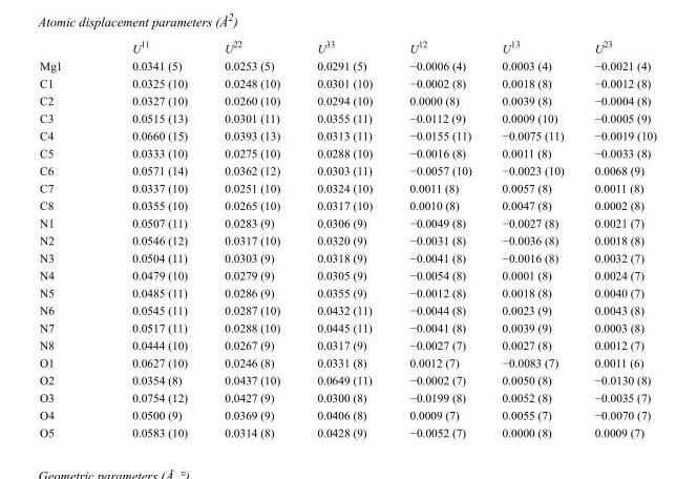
<table><thead><tr><td></td><td>U<sup>11</sup></td><td>U<sup>22</sup></td><td>U<sup>33</sup></td><td>U<sup>12</sup></td><td>U<sup>13</sup></td><td>U<sup>23</sup></td></tr></thead><tbody><tr><td>Mg1</td><td>0.0341 (5)</td><td>0.0253 (5)</td><td>0.0291 (5)</td><td>−0.0006 (4)</td><td>0.0003 (4)</td><td>−0.0021 (4)</td></tr><tr><td>C1</td><td>0.0325 (10)</td><td>0.0248 (10)</td><td>0.0301 (10)</td><td>−0.0002 (8)</td><td>0.0018 (8)</td><td>−0.0012 (8)</td></tr><tr><td>C2</td><td>0.0327 (10)</td><td>0.0260 (10)</td><td>0.0294 (10)</td><td>0.0000 (8)</td><td>0.0039 (8)</td><td>−0.0004 (8)</td></tr><tr><td>C3</td><td>0.0515 (13)</td><td>0.0301 (11)</td><td>0.0355 (11)</td><td>−0.0112 (9)</td><td>0.0009 (10)</td><td>−0.0005 (9)</td></tr><tr><td>C4</td><td>0.0660 (15)</td><td>0.0393 (13)</td><td>0.0313 (11)</td><td>−0.0155 (11)</td><td>−0.0075 (11)</td><td>−0.0019 (10)</td></tr><tr><td>C5</td><td>0.0333 (10)</td><td>0.0275 (10)</td><td>0.0288 (10)</td><td>−0.0016 (8)</td><td>0.0011 (8)</td><td>−0.0033 (8)</td></tr><tr><td>C6</td><td>0.0571 (14)</td><td>0.0362 (12)</td><td>0.0303 (11)</td><td>−0.0057 (10)</td><td>−0.0023 (10)</td><td>0.0068 (9)</td></tr><tr><td>C7</td><td>0.0337 (10)</td><td>0.0251 (10)</td><td>0.0324 (10)</td><td>0.0011 (8)</td><td>0.0057 (8)</td><td>0.0011 (8)</td></tr><tr><td>C8</td><td>0.0355 (10)</td><td>0.0265 (10)</td><td>0.0317 (10)</td><td>0.0010 (8)</td><td>0.0047 (8)</td><td>0.0002 (8)</td></tr><tr><td>N1</td><td>0.0507 (11)</td><td>0.0283 (9)</td><td>0.0306 (9)</td><td>−0.0049 (8)</td><td>−0.0027 (8)</td><td>0.0021 (7)</td></tr><tr><td>N2</td><td>0.0546 (12)</td><td>0.0317 (10)</td><td>0.0320 (9)</td><td>−0.0031 (8)</td><td>−0.0036 (8)</td><td>0.0018 (8)</td></tr><tr><td>N3</td><td>0.0504 (11)</td><td>0.0303 (9)</td><td>0.0318 (9)</td><td>−0.0041 (8)</td><td>−0.0016 (8)</td><td>0.0032 (7)</td></tr><tr><td>N4</td><td>0.0479 (10)</td><td>0.0279 (9)</td><td>0.0305 (9)</td><td>−0.0054 (8)</td><td>0.0001 (8)</td><td>0.0024 (7)</td></tr><tr><td>N5</td><td>0.0485 (11)</td><td>0.0286 (9)</td><td>0.0355 (9)</td><td>−0.0012 (8)</td><td>0.0018 (8)</td><td>0.0040 (7)</td></tr><tr><td>N6</td><td>0.0545 (11)</td><td>0.0287 (10)</td><td>0.0432 (11)</td><td>−0.0044 (8)</td><td>0.0023 (9)</td><td>0.0043 (8)</td></tr><tr><td>N7</td><td>0.0517 (11)</td><td>0.0288 (10)</td><td>0.0445 (11)</td><td>−0.0041 (8)</td><td>0.0039 (9)</td><td>0.0003 (8)</td></tr><tr><td>N8</td><td>0.0444 (10)</td><td>0.0267 (9)</td><td>0.0317 (9)</td><td>−0.0027 (7)</td><td>0.0027 (8)</td><td>0.0012 (7)</td></tr><tr><td>O1</td><td>0.0627 (10)</td><td>0.0246 (8)</td><td>0.0331 (8)</td><td>0.0012 (7)</td><td>−0.0083 (7)</td><td>0.0011 (6)</td></tr><tr><td>O2</td><td>0.0354 (8)</td><td>0.0437 (10)</td><td>0.0649 (11)</td><td>−0.0002 (7)</td><td>0.0050 (8)</td><td>−0.0130 (8)</td></tr><tr><td>O3</td><td>0.0754 (12)</td><td>0.0427 (9)</td><td>0.0300 (8)</td><td>−0.0199 (8)</td><td>0.0052 (8)</td><td>−0.0035 (7)</td></tr><tr><td>O4</td><td>0.0500 (9)</td><td>0.0369 (9)</td><td>0.0406 (8)</td><td>0.0009 (7)</td><td>0.0055 (7)</td><td>−0.0070 (7)</td></tr><tr><td>O5</td><td>0.0583 (10)</td><td>0.0314 (8)</td><td>0.0428 (9)</td><td>−0.0052 (7)</td><td>0.0000 (8)</td><td>0.0009 (7)</td></tr></tbody></table>